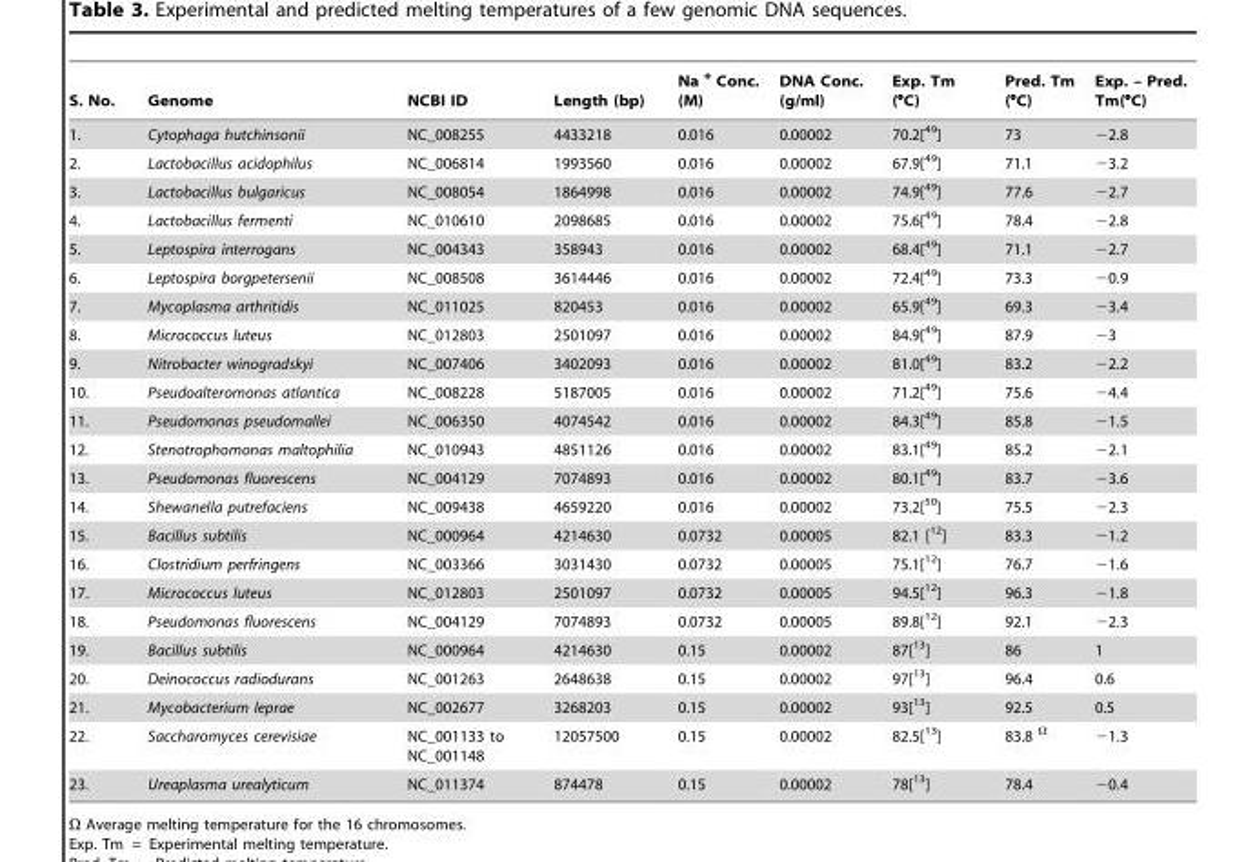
<table><thead><tr><td>S. No.</td><td>Genome</td><td>NCBI ID</td><td>Length (bp)</td><td>Na <sup>+</sup> Conc. (M)</td><td>DNA Conc. (g/ml)</td><td>Exp. Tm (°C)</td><td>Pred. Tm (°C)</td><td>Exp. – Pred. Tm(°C)</td></tr></thead><tbody><tr><td>1.</td><td>Cytophaga hutchinsonii</td><td>NC_008255</td><td>4433218</td><td>0.016</td><td>0.00002</td><td>70.2[<sup>49</sup>]</td><td>73</td><td>−2.8</td></tr><tr><td>2.</td><td>Lactobacillus acidophilus</td><td>NC_006814</td><td>1993560</td><td>0.016</td><td>0.00002</td><td>67.9[<sup>49</sup>]</td><td>71.1</td><td>−3.2</td></tr><tr><td>3.</td><td>Lactobacillus bulgaricus</td><td>NC_008054</td><td>1864998</td><td>0.016</td><td>0.00002</td><td>74.9[<sup>49</sup>]</td><td>77.6</td><td>−2.7</td></tr><tr><td>4.</td><td>Lactobacillus fermenti</td><td>NC_010610</td><td>2098685</td><td>0.016</td><td>0.00002</td><td>75.6[<sup>49</sup>]</td><td>78.4</td><td>−2.8</td></tr><tr><td>5.</td><td>Leptospira interrogans</td><td>NC_004343</td><td>358943</td><td>0.016</td><td>0.00002</td><td>68.4[<sup>49</sup>]</td><td>71.1</td><td>−2.7</td></tr><tr><td>6.</td><td>Leptospira borgpetersenii</td><td>NC_008508</td><td>3614446</td><td>0.016</td><td>0.00002</td><td>72.4[<sup>49</sup>]</td><td>73.3</td><td>−0.9</td></tr><tr><td>7.</td><td>Mycoplasma arthritidis</td><td>NC_011025</td><td>820453</td><td>0.016</td><td>0.00002</td><td>65.9[<sup>49</sup>]</td><td>69.3</td><td>−3.4</td></tr><tr><td>8.</td><td>Micrococcus luteus</td><td>NC_012803</td><td>2501097</td><td>0.016</td><td>0.00002</td><td>84.9[<sup>49</sup>]</td><td>87.9</td><td>−3</td></tr><tr><td>9.</td><td>Nitrobacter winogradskyi</td><td>NC_007406</td><td>3402093</td><td>0.016</td><td>0.00002</td><td>81.0[<sup>49</sup>]</td><td>83.2</td><td>−2.2</td></tr><tr><td>10.</td><td>Pseudoalteromonas atlantica</td><td>NC_008228</td><td>5187005</td><td>0.016</td><td>0.00002</td><td>71.2[<sup>49</sup>]</td><td>75.6</td><td>−4.4</td></tr><tr><td>11.</td><td>Pseudomonas pseudomallei</td><td>NC_006350</td><td>4074542</td><td>0.016</td><td>0.00002</td><td>84.3[<sup>49</sup>]</td><td>85.8</td><td>−1.5</td></tr><tr><td>12.</td><td>Stenotrophomonas maltophilia</td><td>NC_010943</td><td>4851126</td><td>0.016</td><td>0.00002</td><td>83.1[<sup>49</sup>]</td><td>85.2</td><td>−2.1</td></tr><tr><td>13.</td><td>Pseudomonas fluorescens</td><td>NC_004129</td><td>7074893</td><td>0.016</td><td>0.00002</td><td>80.1[<sup>49</sup>]</td><td>83.7</td><td>−3.6</td></tr><tr><td>14.</td><td>Shewanella putrefaciens</td><td>NC_009438</td><td>4659220</td><td>0.016</td><td>0.00002</td><td>73.2[<sup>50</sup>]</td><td>75.5</td><td>−2.3</td></tr><tr><td>15.</td><td>Bacillus subtilis</td><td>NC_000964</td><td>4214630</td><td>0.0732</td><td>0.00005</td><td>82.1 [<sup>12</sup>]</td><td>83.3</td><td>−1.2</td></tr><tr><td>16.</td><td>Clostridium perfringens</td><td>NC_003366</td><td>3031430</td><td>0.0732</td><td>0.00005</td><td>75.1[<sup>12</sup>]</td><td>76.7</td><td>−1.6</td></tr><tr><td>17.</td><td>Micrococcus luteus</td><td>NC_012803</td><td>2501097</td><td>0.0732</td><td>0.00005</td><td>94.5[<sup>12</sup>]</td><td>96.3</td><td>−1.8</td></tr><tr><td>18.</td><td>Pseudomonas fluorescens</td><td>NC_004129</td><td>7074893</td><td>0.0732</td><td>0.00005</td><td>89.8[<sup>12</sup>]</td><td>92.1</td><td>−2.3</td></tr><tr><td>19.</td><td>Bacillus subtilis</td><td>NC_000964</td><td>4214630</td><td>0.15</td><td>0.00002</td><td>87[<sup>13</sup>]</td><td>86</td><td>1</td></tr><tr><td>20.</td><td>Deinococcus radiodurans</td><td>NC_001263</td><td>2648638</td><td>0.15</td><td>0.00002</td><td>97[<sup>13</sup>]</td><td>96.4</td><td>0.6</td></tr><tr><td>21.</td><td>Mycobacterium leprae</td><td>NC_002677</td><td>3268203</td><td>0.15</td><td>0.00002</td><td>93[<sup>13</sup>]</td><td>92.5</td><td>0.5</td></tr><tr><td>22.</td><td>Saccharomyces cerevisiae</td><td>NC_001133 to NC_001148</td><td>12057500</td><td>0.15</td><td>0.00002</td><td>82.5[<sup>13</sup>]</td><td>83.8 <sup>Ω</sup></td><td>−1.3</td></tr><tr><td>23.</td><td>Ureaplasma urealyticum</td><td>NC_011374</td><td>874478</td><td>0.15</td><td>0.00002</td><td>78[<sup>13</sup>]</td><td>78.4</td><td>−0.4</td></tr></tbody></table>